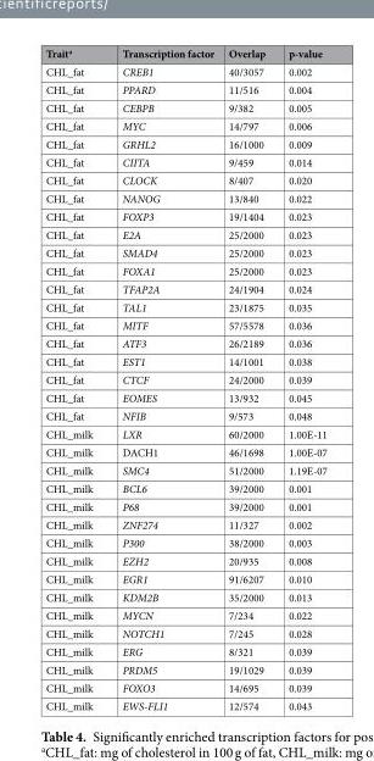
<table><thead><tr><td>Trait<sup>a</sup></td><td>Transcription factor</td><td>Overlap</td><td>p-value</td></tr></thead><tbody><tr><td>CHL_fat</td><td>CREB1</td><td>40/3057</td><td>0.002</td></tr><tr><td>CHL_fat</td><td>PPARD</td><td>11/516</td><td>0.004</td></tr><tr><td>CHL_fat</td><td>CEBPB</td><td>9/382</td><td>0.005</td></tr><tr><td>CHL_fat</td><td>MYC</td><td>14/797</td><td>0.006</td></tr><tr><td>CHL_fat</td><td>GRHL2</td><td>16/1000</td><td>0.009</td></tr><tr><td>CHL_fat</td><td>CIITA</td><td>9/459</td><td>0.014</td></tr><tr><td>CHL_fat</td><td>CLOCK</td><td>8/407</td><td>0.020</td></tr><tr><td>CHL_fat</td><td>NANOG</td><td>13/840</td><td>0.022</td></tr><tr><td>CHL_fat</td><td>FOXP3</td><td>19/1404</td><td>0.023</td></tr><tr><td>CHL_fat</td><td>E2A</td><td>25/2000</td><td>0.023</td></tr><tr><td>CHL_fat</td><td>SMAD4</td><td>25/2000</td><td>0.023</td></tr><tr><td>CHL_fat</td><td>FOXA1</td><td>25/2000</td><td>0.023</td></tr><tr><td>CHL_fat</td><td>TFAP2A</td><td>24/1904</td><td>0.024</td></tr><tr><td>CHL_fat</td><td>TAL1</td><td>23/1875</td><td>0.035</td></tr><tr><td>CHL_fat</td><td>MITF</td><td>57/5578</td><td>0.036</td></tr><tr><td>CHL_fat</td><td>ATF3</td><td>26/2189</td><td>0.036</td></tr><tr><td>CHL_fat</td><td>EST1</td><td>14/1001</td><td>0.038</td></tr><tr><td>CHL_fat</td><td>CTCF</td><td>24/2000</td><td>0.039</td></tr><tr><td>CHL_fat</td><td>EOMES</td><td>13/932</td><td>0.045</td></tr><tr><td>CHL_fat</td><td>NFIB</td><td>9/573</td><td>0.048</td></tr><tr><td>CHL_milk</td><td>LXR</td><td>60/2000</td><td>1.00E-11</td></tr><tr><td>CHL_milk</td><td>DACH1</td><td>46/1698</td><td>1.00E-07</td></tr><tr><td>CHL_milk</td><td>SMC4</td><td>51/2000</td><td>1.19E-07</td></tr><tr><td>CHL_milk</td><td>BCL6</td><td>39/2000</td><td>0.001</td></tr><tr><td>CHL_milk</td><td>P68</td><td>39/2000</td><td>0.001</td></tr><tr><td>CHL_milk</td><td>ZNF274</td><td>11/327</td><td>0.002</td></tr><tr><td>CHL_milk</td><td>P300</td><td>38/2000</td><td>0.003</td></tr><tr><td>CHL_milk</td><td>EZH2</td><td>20/935</td><td>0.008</td></tr><tr><td>CHL_milk</td><td>EGR1</td><td>91/6207</td><td>0.010</td></tr><tr><td>CHL_milk</td><td>KDM2B</td><td>35/2000</td><td>0.013</td></tr><tr><td>CHL_milk</td><td>MYCN</td><td>7/234</td><td>0.022</td></tr><tr><td>CHL_milk</td><td>NOTCH1</td><td>7/245</td><td>0.028</td></tr><tr><td>CHL_milk</td><td>ERG</td><td>8/321</td><td>0.039</td></tr><tr><td>CHL_milk</td><td>PRDM5</td><td>19/1029</td><td>0.039</td></tr><tr><td>CHL_milk</td><td>FOXO3</td><td>14/695</td><td>0.039</td></tr><tr><td>CHL_milk</td><td>EWS-FLI1</td><td>12/574</td><td>0.043</td></tr></tbody></table>